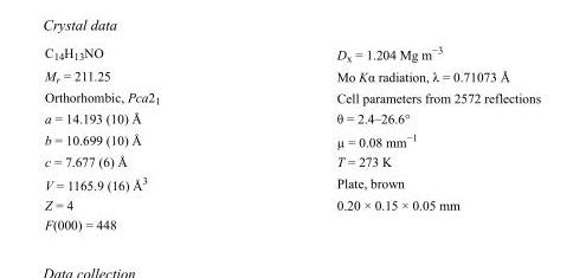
<table><tbody><tr><td>C<sub>14</sub>H<sub>13</sub>NO</td><td>D<sub>x</sub> = 1.204 Mg m<sup>−3</sup></td></tr><tr><td>M<sub>r</sub> = 211.25</td><td>Mo Kα radiation, λ = 0.71073 Å</td></tr><tr><td>Orthorhombic, Pca2<sub>1</sub></td><td>Cell parameters from 2572 reflections</td></tr><tr><td>a = 14.193 (10) Å</td><td>θ = 2.4–26.6°</td></tr><tr><td>b = 10.699 (10) Å</td><td>µ = 0.08 mm<sup>−1</sup></td></tr><tr><td>c = 7.677 (6) Å</td><td>T = 273 K</td></tr><tr><td>V = 1165.9 (16) Å<sup>3</sup></td><td>Plate, brown</td></tr><tr><td>Z = 4</td><td>0.20 × 0.15 × 0.05 mm</td></tr><tr><td>F(000) = 448</td><td></td></tr></tbody></table>